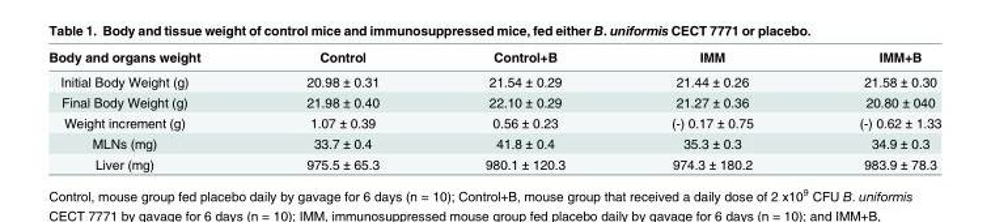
<table><thead><tr><td>Body and organs weight</td><td>Control</td><td>Control+B</td><td>IMM</td><td>IMM+B</td></tr></thead><tbody><tr><td>Initial Body Weight (g)</td><td>20.98 ± 0.31</td><td>21.54 ± 0.29</td><td>21.44 ± 0.26</td><td>21.58 ± 0.30</td></tr><tr><td>Final Body Weight (g)</td><td>21.98 ± 0.40</td><td>22.10 ± 0.29</td><td>21.27 ± 0.36</td><td>20.80 ± 040</td></tr><tr><td>Weight increment (g)</td><td>1.07 ± 0.39</td><td>0.56 ± 0.23</td><td>(-) 0.17 ± 0.75</td><td>(-) 0.62 ± 1.33</td></tr><tr><td>MLNs (mg)</td><td>33.7 ± 0.4</td><td>41.8 ± 0.4</td><td>35.3 ± 0.3</td><td>34.9 ± 0.3</td></tr><tr><td>Liver (mg)</td><td>975.5 ± 65.3</td><td>980.1 ± 120.3</td><td>974.3 ± 180.2</td><td>983.9 ± 78.3</td></tr></tbody></table>